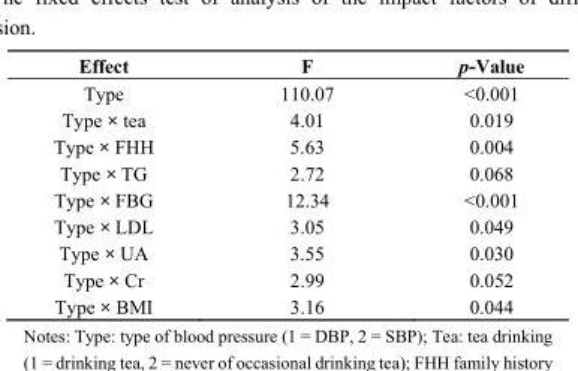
<table><thead><tr><td>Effect</td><td>F</td><td>p-Value</td></tr></thead><tbody><tr><td>Type</td><td>110.07</td><td>&lt;0.001</td></tr><tr><td>Type × tea</td><td>4.01</td><td>0.019</td></tr><tr><td>Type × FHH</td><td>5.63</td><td>0.004</td></tr><tr><td>Type × TG</td><td>2.72</td><td>0.068</td></tr><tr><td>Type × FBG</td><td>12.34</td><td>&lt;0.001</td></tr><tr><td>Type × LDL</td><td>3.05</td><td>0.049</td></tr><tr><td>Type × UA</td><td>3.55</td><td>0.030</td></tr><tr><td>Type × Cr</td><td>2.99</td><td>0.052</td></tr><tr><td>Type × BMI</td><td>3.16</td><td>0.044</td></tr></tbody></table>